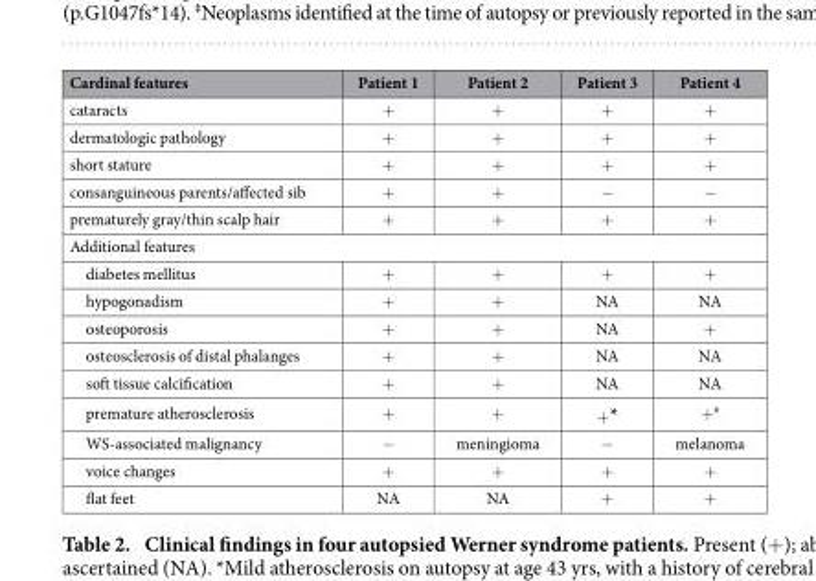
<table><thead><tr><td>Cardinal features</td><td>Patient 1</td><td>Patient 2</td><td>Patient 3</td><td>Patient 4</td></tr></thead><tbody><tr><td>cataracts</td><td>+</td><td>+</td><td>+</td><td>+</td></tr><tr><td>dermatologic pathology</td><td>+</td><td>+</td><td>+</td><td>+</td></tr><tr><td>short stature</td><td>+</td><td>+</td><td>+</td><td>+</td></tr><tr><td>consanguineous parents/affected sib</td><td>+</td><td>+</td><td>−</td><td>−</td></tr><tr><td>prematurely gray/thin scalp hair</td><td>+</td><td>+</td><td>+</td><td>+</td></tr><tr><td colspan="5">Additional features</td></tr><tr><td>diabetes mellitus</td><td>+</td><td>+</td><td>+</td><td>+</td></tr><tr><td>hypogonadism</td><td>+</td><td>+</td><td>NA</td><td>NA</td></tr><tr><td>osteoporosis</td><td>+</td><td>+</td><td>NA</td><td>+</td></tr><tr><td>osteosclerosis of distal phalanges</td><td>+</td><td>+</td><td>NA</td><td>NA</td></tr><tr><td>soft tissue calcification</td><td>+</td><td>+</td><td>NA</td><td>NA</td></tr><tr><td>premature atherosclerosis</td><td>+</td><td>+</td><td>+ *</td><td>+ #</td></tr><tr><td>WS-associated malignancy</td><td>−</td><td>meningioma</td><td>−</td><td>melanoma</td></tr><tr><td>voice changes</td><td>+</td><td>+</td><td>+</td><td>+</td></tr><tr><td>flat feet</td><td>NA</td><td>NA</td><td>+</td><td>+</td></tr></tbody></table>